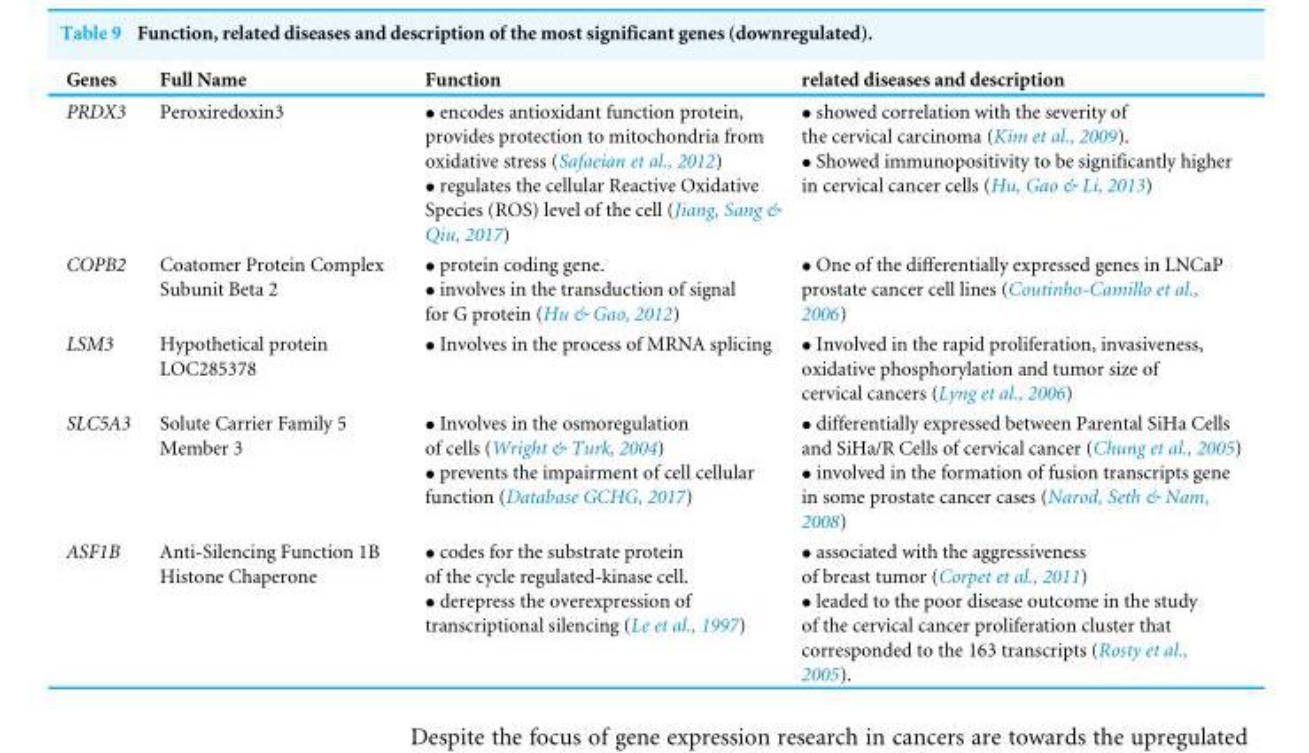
<table><thead><tr><td>Genes</td><td>Full Name</td><td>Function</td><td>related diseases and description</td></tr></thead><tbody><tr><td>PRDX3</td><td>Peroxiredoxin3</td><td>• encodes antioxidant function protein, provides protection to mitochondria from oxidative stress (Safaeian et al., 2012) • regulates the cellular Reactive Oxidative Species (ROS) level of the cell (Jiang, Sang &amp; Qiu, 2017)</td><td>• showed correlation with the severity of the cervical carcinoma (Kim et al., 2009). • Showed immunopositivity to be significantly higher in cervical cancer cells (Hu, Gao &amp; Li, 2013)</td></tr><tr><td>COPB2</td><td>Coatomer Protein Complex Subunit Beta 2</td><td>• protein coding gene. • involves in the transduction of signal for G protein (Hu &amp; Gao, 2012)</td><td>• One of the differentially expressed genes in LNCaP prostate cancer cell lines (Coutinho-Camillo et al., 2006)</td></tr><tr><td>LSM3</td><td>Hypothetical protein LOC285378</td><td>• Involves in the process of MRNA splicing</td><td>• Involved in the rapid proliferation, invasiveness, oxidative phosphorylation and tumor size of cervical cancers (Lyng et al., 2006)</td></tr><tr><td>SLC5A3</td><td>Solute Carrier Family 5 Member 3</td><td>• Involves in the osmoregulation of cells (Wright &amp; Turk, 2004) • prevents the impairment of cell cellular function (Database GCHG, 2017)</td><td>• differentially expressed between Parental SiHa Cells and SiHa/R Cells of cervical cancer (Chung et al., 2005) • involved in the formation of fusion transcripts gene in some prostate cancer cases (Narod, Seth &amp; Nam, 2008)</td></tr><tr><td>ASF1B</td><td>Anti-Silencing Function 1B Histone Chaperone</td><td>• codes for the substrate protein of the cycle regulated-kinase cell. • derepress the overexpression of transcriptional silencing (Le et al., 1997)</td><td>• associated with the aggressiveness of breast tumor (Corpet et al., 2011) • leaded to the poor disease outcome in the study of the cervical cancer proliferation cluster that corresponded to the 163 transcripts (Rosty et al., 2005).</td></tr></tbody></table>